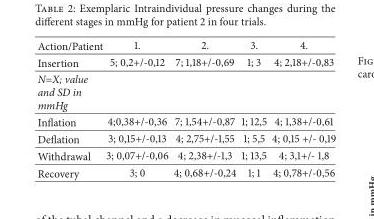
<table><thead><tr><td>Action/Patient</td><td>1.</td><td>2.</td><td>3.</td><td>4.</td></tr></thead><tbody><tr><td>Insertion</td><td>5; 0,2+/-0,12</td><td>7; 1,18+/-0,69</td><td>1; 3</td><td>4; 2,18+/-0,83</td></tr><tr><td colspan="5">N=X; value and SD in mmHg</td></tr><tr><td>Inflation</td><td>4;0,38+/-0,36</td><td>7; 1,54+/-0,87</td><td>1; 12,5</td><td>4; 1,38+/-0,61</td></tr><tr><td>Deflation</td><td>3; 0,15+/-0,13</td><td>4; 2,75+/-1,55</td><td>1; 5,5</td><td>4; 0,15 +/- 0,19</td></tr><tr><td>Withdrawal</td><td>3; 0,07+/-0,06</td><td>4; 2,38+/-1,3</td><td>1; 13,5</td><td>4; 3,1+/- 1,8</td></tr><tr><td>Recovery</td><td>3; 0</td><td>4; 0,68+/-0,24</td><td>1; 1</td><td>4; 0,78+/-0,56</td></tr></tbody></table>